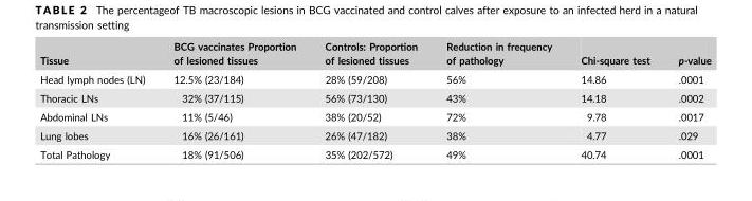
<table><thead><tr><td>Tissue</td><td>BCG vaccinates Proportion of lesioned tissues</td><td>Controls: Proportion of lesioned tissues</td><td>Reduction in frequency of pathology</td><td>Chi-square test</td><td>p-value</td></tr></thead><tbody><tr><td>Head lymph nodes (LN)</td><td>12.5% (23/184)</td><td>28% (59/208)</td><td>56%</td><td>14.86</td><td>.0001</td></tr><tr><td>Thoracic LNs</td><td>32% (37/115)</td><td>56% (73/130)</td><td>43%</td><td>14.18</td><td>.0002</td></tr><tr><td>Abdominal LNs</td><td>11% (5/46)</td><td>38% (20/52)</td><td>72%</td><td>9.78</td><td>.0017</td></tr><tr><td>Lung lobes</td><td>16% (26/161)</td><td>26% (47/182)</td><td>38%</td><td>4.77</td><td>.029</td></tr><tr><td>Total Pathology</td><td>18% (91/506)</td><td>35% (202/572)</td><td>49%</td><td>40.74</td><td>.0001</td></tr></tbody></table>